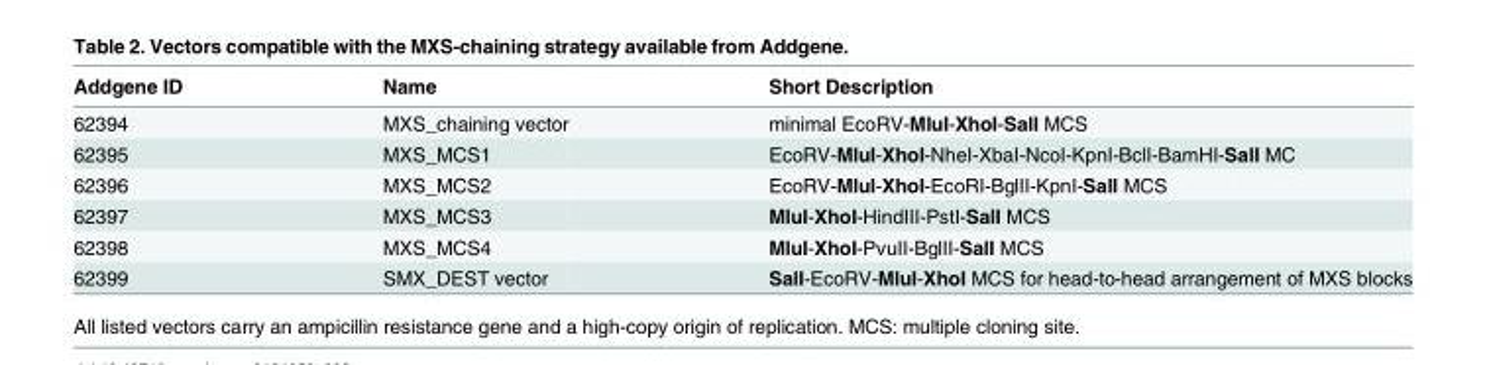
<table><thead><tr><td>Addgene ID</td><td>Name</td><td>Short Description</td></tr></thead><tbody><tr><td>62394</td><td>MXS_chaining vector</td><td>minimal EcoRV-MluI-XhoI-SalI MCS</td></tr><tr><td>62395</td><td>MXS_MCS1</td><td>EcoRV-MluI-XhoI-NheI-XbaI-NcoI-KpnI-BclI-BamHI-SalI MC</td></tr><tr><td>62396</td><td>MXS_MCS2</td><td>EcoRV-MluI-XhoI-EcoRI-BglII-KpnI-SalI MCS</td></tr><tr><td>62397</td><td>MXS_MCS3</td><td>MluI-XhoI-HindIII-PstI-SalI MCS</td></tr><tr><td>62398</td><td>MXS_MCS4</td><td>MluI-XhoI-PvuII-BglII-SalI MCS</td></tr><tr><td>62399</td><td>SMX_DEST vector</td><td>SalI-EcoRV-MluI-XhoI MCS for head-to-head arrangement of MXS blocks</td></tr></tbody></table>